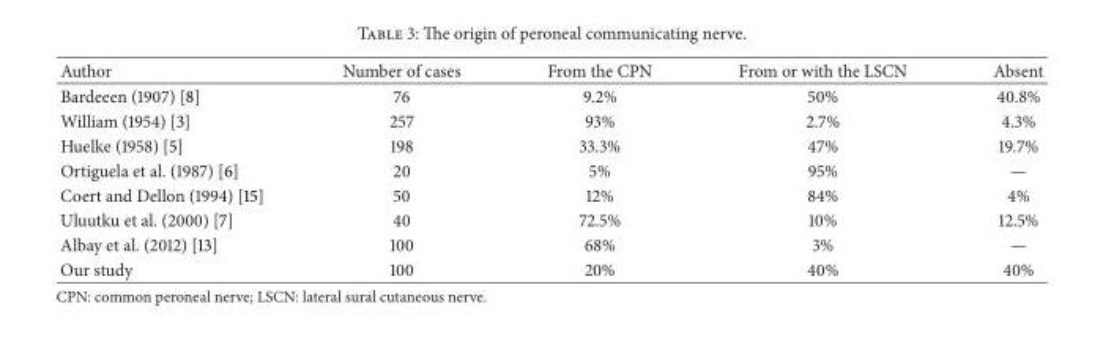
<table><thead><tr><td>Author</td><td>Number of cases</td><td>From the CPN</td><td>From or with the LSCN</td><td>Absent</td></tr></thead><tbody><tr><td>Bardeeen (1907) [8]</td><td>76</td><td>9.2%</td><td>50%</td><td>40.8%</td></tr><tr><td>William (1954) [3]</td><td>257</td><td>93%</td><td>2.7%</td><td>4.3%</td></tr><tr><td>Huelke (1958) [5]</td><td>198</td><td>33.3%</td><td>47%</td><td>19.7%</td></tr><tr><td>Ortiguela et al. (1987) [6]</td><td>20</td><td>5%</td><td>95%</td><td>—</td></tr><tr><td>Coert and Dellon (1994) [15]</td><td>50</td><td>12%</td><td>84%</td><td>4%</td></tr><tr><td>Uluutku et al. (2000) [7]</td><td>40</td><td>72.5%</td><td>10%</td><td>12.5%</td></tr><tr><td>Albay et al. (2012) [13]</td><td>100</td><td>68%</td><td>3%</td><td>—</td></tr><tr><td>Our study</td><td>100</td><td>20%</td><td>40%</td><td>40%</td></tr></tbody></table>